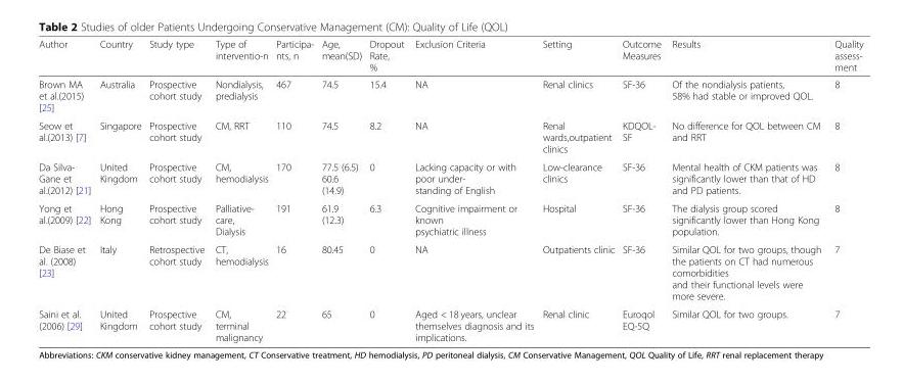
<table><thead><tr><td>Author</td><td>Country</td><td>Study type</td><td>Type of interventio-n</td><td>Participa- nts, n</td><td>Age, mean(SD)</td><td>Dropout Rate, %</td><td>Exclusion Criteria</td><td>Setting</td><td>Outcome Measures</td><td>Results</td><td>Quality assess- ment</td></tr></thead><tbody><tr><td>Brown MA et al.(2015) [25]</td><td>Australia</td><td>Prospective cohort study</td><td>Nondialysis, predialysis</td><td>467</td><td>74.5</td><td>15.4</td><td>NA</td><td>Renal clinics</td><td>SF-36</td><td>Of the nondialysis patients, 58% had stable or improved QOL.</td><td>8</td></tr><tr><td>Seow et al.(2013) [7]</td><td>Singapore</td><td>Prospective cohort study</td><td>CM, RRT</td><td>110</td><td>74.5</td><td>8.2</td><td>NA</td><td>Renal wards,outpatient clinics</td><td>KDQOL- SF</td><td>No difference for QOL between CM and RRT</td><td>8</td></tr><tr><td>Da Silva- Gane et al.(2012) [21]</td><td>United Kingdom</td><td>Prospective cohort study</td><td>CM, hemodialysis</td><td>170</td><td>77.5 (6.5) 60.6 (14.9)</td><td>0</td><td>Lacking capacity or with poor under- standing of English</td><td>Low-clearance clinics</td><td>SF-36</td><td>Mental health of CKM patients was significantly lower than that of HD and PD patients.</td><td>8</td></tr><tr><td>Yong et al.(2009) [22]</td><td>Hong Kong</td><td>Prospective cohort study</td><td>Palliative- care, Dialysis</td><td>191</td><td>61.9 (12.3)</td><td>6.3</td><td>Cognitive impairment or known psychiatric illness</td><td>Hospital</td><td>SF-36</td><td>The dialysis group scored significantly lower than Hong Kong population.</td><td>8</td></tr><tr><td>De Biase et al. (2008) [23]</td><td>Italy</td><td>Retrospective cohort study</td><td>CT, hemodialysis</td><td>16</td><td>80.45</td><td>0</td><td>NA</td><td>Outpatients clinic</td><td>SF-36</td><td>Similar QOL for two groups, though the patients on CT had numerous comorbidities and their functional levels were more severe.</td><td>7</td></tr><tr><td>Saini et al. (2006) [29]</td><td>United Kingdom</td><td>Prospective cohort study</td><td>CM, terminal malignancy</td><td>22</td><td>65</td><td>0</td><td>Aged &lt; 18 years, unclear themselves diagnosis and its implications.</td><td>Renal clinic</td><td>Euroqol EQ-5Q</td><td>Similar QOL for two groups.</td><td>7</td></tr></tbody></table>